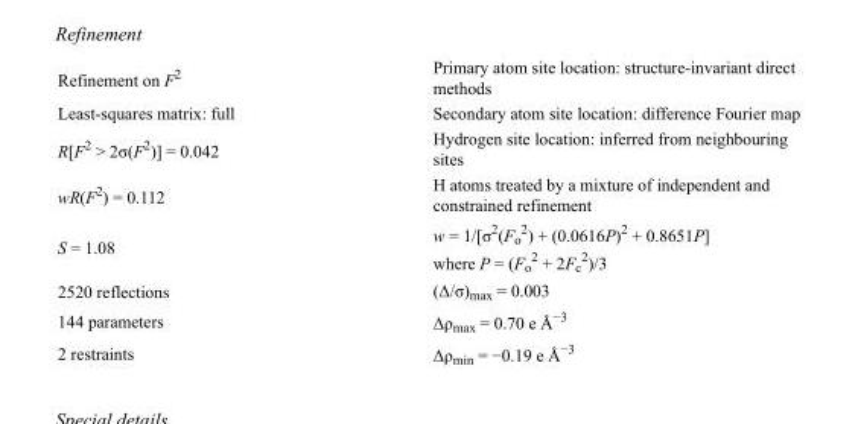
<table><tbody><tr><td>Refinement on F<sup>2</sup></td><td>Primary atom site location: structure-invariant direct methods</td></tr><tr><td>Least-squares matrix: full</td><td>Secondary atom site location: difference Fourier map</td></tr><tr><td>R[F<sup>2</sup> &gt; 2σ(F<sup>2</sup>)] = 0.042</td><td>Hydrogen site location: inferred from neighbouring sites</td></tr><tr><td>wR(F<sup>2</sup>) = 0.112</td><td>H atoms treated by a mixture of independent and constrained refinement</td></tr><tr><td>S = 1.08</td><td>w = 1/[σ<sup>2</sup>(F<sub>o</sub> <sup>2</sup>) + (0.0616P)<sup>2</sup> + 0.8651P] where P = (F<sub>o</sub> <sup>2</sup> + 2F<sub>c</sub> <sup>2</sup>)/3</td></tr><tr><td>2520 reflections</td><td>(Δ/σ)<sub>max</sub> = 0.003</td></tr><tr><td>144 parameters</td><td>Δρ<sub>max</sub> = 0.70 e Å<sup>−3</sup></td></tr><tr><td>2 restraints</td><td>Δρ<sub>min</sub> = −0.19 e Å<sup>−3</sup></td></tr></tbody></table>